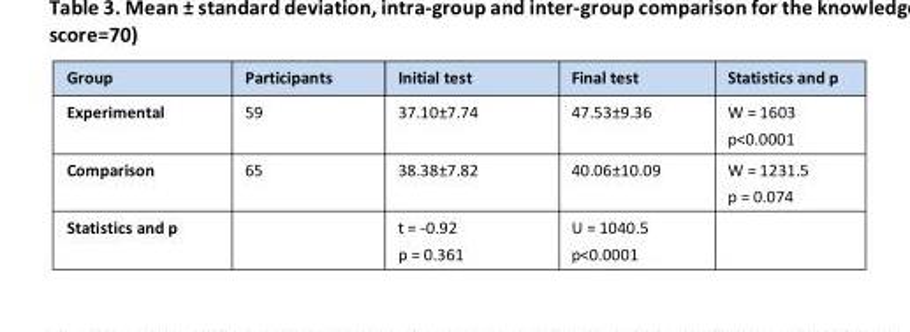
<table><thead><tr><td>Group</td><td>Participants</td><td>Initial test</td><td>Final test</td><td>Statistics and p</td></tr></thead><tbody><tr><td>Experimental</td><td>59</td><td>37.10±7.74</td><td>47.53±9.36</td><td>W = 1603 p&lt;0.0001</td></tr><tr><td>Comparison</td><td>65</td><td>38.38±7.82</td><td>40.06±10.09</td><td>W = 1231.5 p = 0.074</td></tr><tr><td>Statistics and p</td><td></td><td>t = -0.92 p = 0.361</td><td>U = 1040.5 p&lt;0.0001</td><td></td></tr></tbody></table>